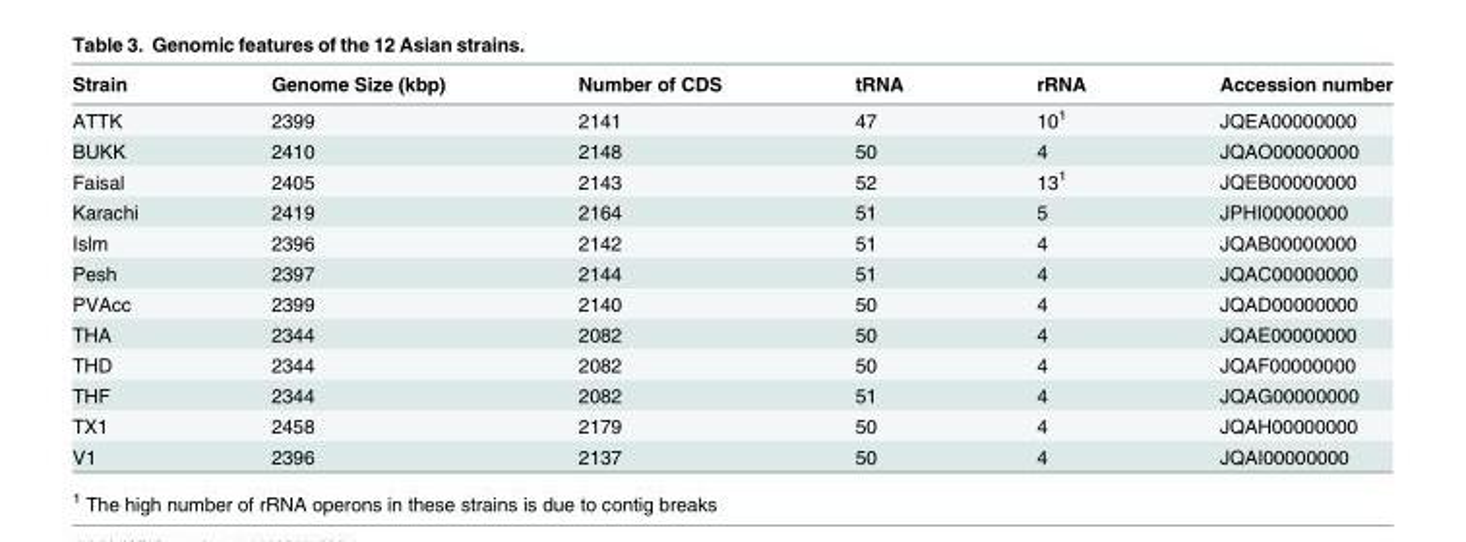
<table><thead><tr><td>Strain</td><td>Genome Size (kbp)</td><td>Number of CDS</td><td>tRNA</td><td>rRNA</td><td>Accession number</td></tr></thead><tbody><tr><td>ATTK</td><td>2399</td><td>2141</td><td>47</td><td>10<sup>1</sup></td><td>JQEA00000000</td></tr><tr><td>BUKK</td><td>2410</td><td>2148</td><td>50</td><td>4</td><td>JQAO00000000</td></tr><tr><td>Faisal</td><td>2405</td><td>2143</td><td>52</td><td>13<sup>1</sup></td><td>JQEB00000000</td></tr><tr><td>Karachi</td><td>2419</td><td>2164</td><td>51</td><td>5</td><td>JPHI00000000</td></tr><tr><td>Islm</td><td>2396</td><td>2142</td><td>51</td><td>4</td><td>JQAB00000000</td></tr><tr><td>Pesh</td><td>2397</td><td>2144</td><td>51</td><td>4</td><td>JQAC00000000</td></tr><tr><td>PVAcc</td><td>2399</td><td>2140</td><td>50</td><td>4</td><td>JQAD00000000</td></tr><tr><td>THA</td><td>2344</td><td>2082</td><td>50</td><td>4</td><td>JQAE00000000</td></tr><tr><td>THD</td><td>2344</td><td>2082</td><td>50</td><td>4</td><td>JQAF00000000</td></tr><tr><td>THF</td><td>2344</td><td>2082</td><td>51</td><td>4</td><td>JQAG00000000</td></tr><tr><td>TX1</td><td>2458</td><td>2179</td><td>50</td><td>4</td><td>JQAH00000000</td></tr><tr><td>V1</td><td>2396</td><td>2137</td><td>50</td><td>4</td><td>JQAI00000000</td></tr></tbody></table>